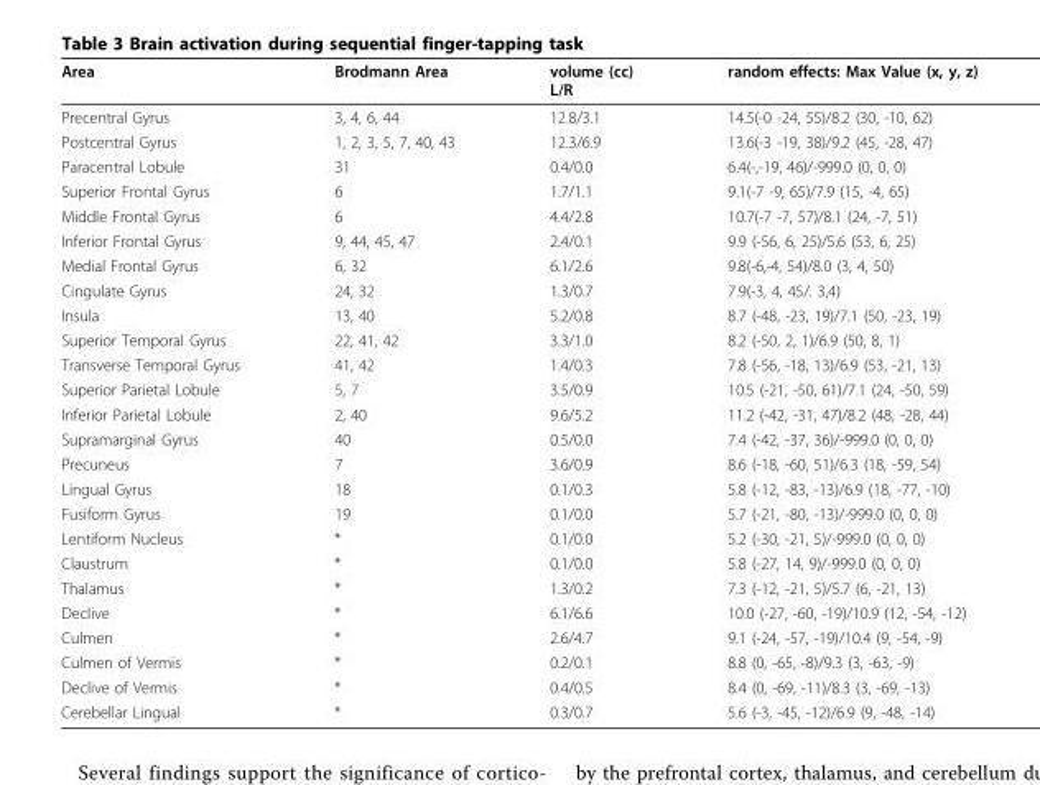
<table><thead><tr><td>Area</td><td>Brodmann Area</td><td>volume (cc) L/R</td><td>random effects: Max Value (x, y, z)</td></tr></thead><tbody><tr><td>Precentral Gyrus</td><td>3, 4, 6, 44</td><td>12.8/3.1</td><td>14.5(-0 -24, 55)/8.2 (30, -10, 62)</td></tr><tr><td>Postcentral Gyrus</td><td>1, 2, 3, 5, 7, 40, 43</td><td>12.3/6.9</td><td>13.6(-3 -19, 38)/9.2 (45, -28, 47)</td></tr><tr><td>Paracentral Lobule</td><td>31</td><td>0.4/0.0</td><td>6.4(-,-19, 46)/-999.0 (0, 0, 0)</td></tr><tr><td>Superior Frontal Gyrus</td><td>6</td><td>1.7/1.1</td><td>9.1(-7 -9, 65)/7.9 (15, -4, 65)</td></tr><tr><td>Middle Frontal Gyrus</td><td>6</td><td>4.4/2.8</td><td>10.7(-7 -7, 57)/8.1 (24, -7, 51)</td></tr><tr><td>Inferior Frontal Gyrus</td><td>9, 44, 45, 47</td><td>2.4/0.1</td><td>9.9 (-56, 6, 25)/5.6 (53, 6, 25)</td></tr><tr><td>Medial Frontal Gyrus</td><td>6, 32</td><td>6.1/2.6</td><td>9.8(-6,-4, 54)/8.0 (3, 4, 50)</td></tr><tr><td>Cingulate Gyrus</td><td>24, 32</td><td>1.3/0.7</td><td>7.9(-3, 4, 45/. 3,4)</td></tr><tr><td>Insula</td><td>13, 40</td><td>5.2/0.8</td><td>8.7 (-48, -23, 19)/7.1 (50, -23, 19)</td></tr><tr><td>Superior Temporal Gyrus</td><td>22, 41, 42</td><td>3.3/1.0</td><td>8.2 (-50, 2, 1)/6.9 (50, 8, 1)</td></tr><tr><td>Transverse Temporal Gyrus</td><td>41, 42</td><td>1.4/0.3</td><td>7.8 (-56, -18, 13)/6.9 (53, -21, 13)</td></tr><tr><td>Superior Parietal Lobule</td><td>5, 7</td><td>3.5/0.9</td><td>10.5 (-21, -50, 61)/7.1 (24, -50, 59)</td></tr><tr><td>Inferior Parietal Lobule</td><td>2, 40</td><td>9.6/5.2</td><td>11.2 (-42, -31, 47)/8.2 (48, -28, 44)</td></tr><tr><td>Supramarginal Gyrus</td><td>40</td><td>0.5/0.0</td><td>7.4 (-42, -37, 36)/-999.0 (0, 0, 0)</td></tr><tr><td>Precuneus</td><td>7</td><td>3.6/0.9</td><td>8.6 (-18, -60, 51)/6.3 (18, -59, 54)</td></tr><tr><td>Lingual Gyrus</td><td>18</td><td>0.1/0.3</td><td>5.8 (-12, -83, -13)/6.9 (18, -77, -10)</td></tr><tr><td>Fusiform Gyrus</td><td>19</td><td>0.1/0.0</td><td>5.7 (-21, -80, -13)/-999.0 (0, 0, 0)</td></tr><tr><td>Lentiform Nucleus</td><td>*</td><td>0.1/0.0</td><td>5.2 (-30, -21, 5)/-999.0 (0, 0, 0)</td></tr><tr><td>Claustrum</td><td>*</td><td>0.1/0.0</td><td>5.8 (-27, 14, 9)/-999.0 (0, 0, 0)</td></tr><tr><td>Thalamus</td><td>*</td><td>1.3/0.2</td><td>7.3 (-12, -21, 5)/5.7 (6, -21, 13)</td></tr><tr><td>Declive</td><td>*</td><td>6.1/6.6</td><td>10.0 (-27, -60, -19)/10.9 (12, -54, -12)</td></tr><tr><td>Culmen</td><td>*</td><td>2.6/4.7</td><td>9.1 (-24, -57, -19)/10.4 (9, -54, -9)</td></tr><tr><td>Culmen of Vermis</td><td>*</td><td>0.2/0.1</td><td>8.8 (0, -65, -8)/9.3 (3, -63, -9)</td></tr><tr><td>Declive of Vermis</td><td>*</td><td>0.4/0.5</td><td>8.4 (0, -69, -11)/8.3 (3, -69, -13)</td></tr><tr><td>Cerebellar Lingual</td><td>*</td><td>0.3/0.7</td><td>5.6 (-3, -45, -12)/6.9 (9, -48, -14)</td></tr></tbody></table>